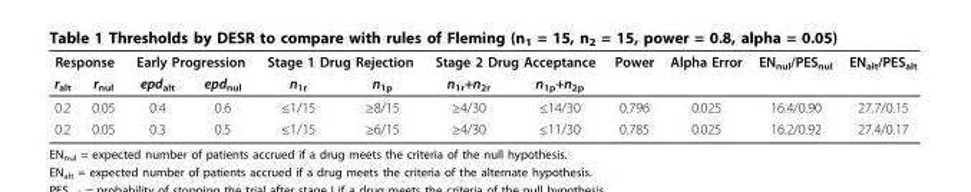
<table><thead><tr><td colspan="2">Response</td><td colspan="2">Early Progression</td><td colspan="2">Stage 1 Drug Rejection</td><td colspan="2">Stage 2 Drug Acceptance</td><td rowspan="2">Power</td><td rowspan="2">Alpha Error</td><td rowspan="2">EN<sub>nul</sub>/PES<sub>nul</sub></td><td rowspan="2">EN<sub>alt</sub>/PES<sub>alt</sub></td></tr><tr><td>r<sub>alt</sub></td><td>r<sub>nul</sub></td><td>epd<sub>alt</sub></td><td>epd<sub>nul</sub></td><td>n<sub>1r</sub></td><td>n<sub>1p</sub></td><td>n<sub>1r</sub>+n<sub>2r</sub></td><td>n<sub>1p</sub>+n<sub>2p</sub></td></tr></thead><tbody><tr><td>0.2</td><td>0.05</td><td>0.4</td><td>0.6</td><td>≤1/15</td><td>≥8/15</td><td>≥4/30</td><td>≤14/30</td><td>0.796</td><td>0.025</td><td>16.4/0.90</td><td>27.7/0.15</td></tr><tr><td>0.2</td><td>0.05</td><td>0.3</td><td>0.5</td><td>≤1/15</td><td>≥6/15</td><td>≥4/30</td><td>≤11/30</td><td>0.785</td><td>0.025</td><td>16.2/0.92</td><td>27.4/0.17</td></tr></tbody></table>